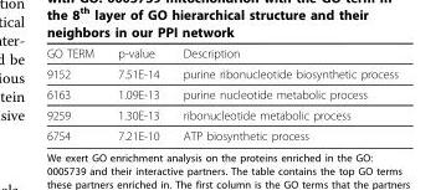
<table><thead><tr><td>GO TERM</td><td>p-value</td><td>Description</td></tr></thead><tbody><tr><td>9152</td><td>7.51E-14</td><td>purine ribonucleotide biosynthetic process</td></tr><tr><td>6163</td><td>1.09E-13</td><td>purine nucleotide metabolic process</td></tr><tr><td>9259</td><td>1.30E-13</td><td>ribonucleotide metabolic process</td></tr><tr><td>6754</td><td>7.21E-10</td><td>ATP biosynthetic process</td></tr></tbody></table>